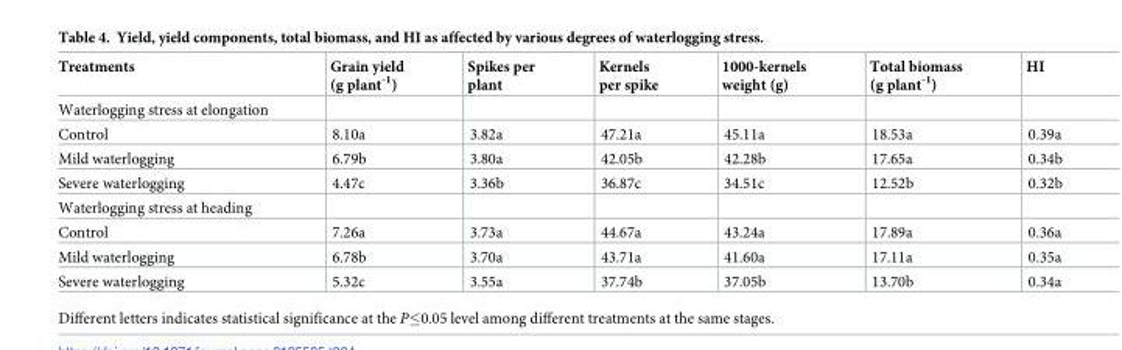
<table><thead><tr><td>Treatments</td><td>Grain yield (g plant<sup>-1</sup>)</td><td>Spikes per plant</td><td>Kernels per spike</td><td>1000-kernels weight (g)</td><td>Total biomass (g plant<sup>-1</sup>)</td><td>HI</td></tr></thead><tbody><tr><td colspan="7">Waterlogging stress at elongation</td></tr><tr><td>Control</td><td>8.10a</td><td>3.82a</td><td>47.21a</td><td>45.11a</td><td>18.53a</td><td>0.39a</td></tr><tr><td>Mild waterlogging</td><td>6.79b</td><td>3.80a</td><td>42.05b</td><td>42.28b</td><td>17.65a</td><td>0.34b</td></tr><tr><td>Severe waterlogging</td><td>4.47c</td><td>3.36b</td><td>36.87c</td><td>34.51c</td><td>12.52b</td><td>0.32b</td></tr><tr><td colspan="7">Waterlogging stress at heading</td></tr><tr><td>Control</td><td>7.26a</td><td>3.73a</td><td>44.67a</td><td>43.24a</td><td>17.89a</td><td>0.36a</td></tr><tr><td>Mild waterlogging</td><td>6.78b</td><td>3.70a</td><td>43.71a</td><td>41.60a</td><td>17.11a</td><td>0.35a</td></tr><tr><td>Severe waterlogging</td><td>5.32c</td><td>3.55a</td><td>37.74b</td><td>37.05b</td><td>13.70b</td><td>0.34a</td></tr></tbody></table>